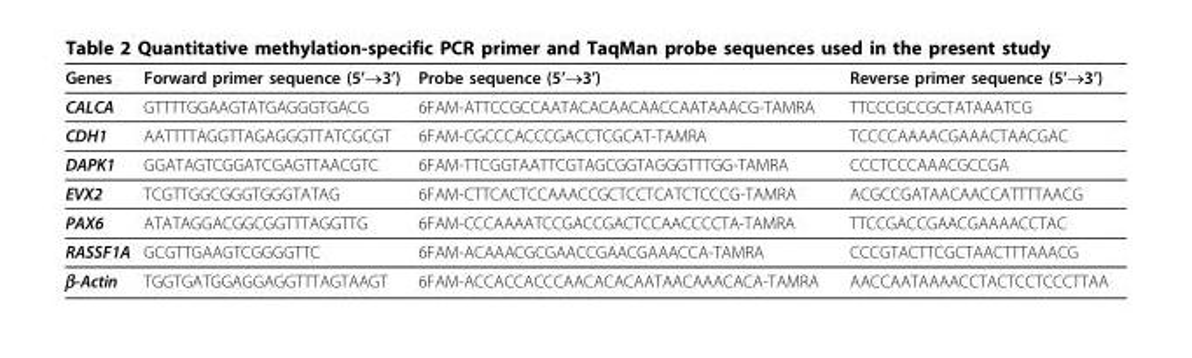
<table><thead><tr><td>Genes</td><td>Forward primer sequence (5’→3’)</td><td>Probe sequence (5’→3’)</td><td>Reverse primer sequence (5’→3’)</td></tr></thead><tbody><tr><td>CALCA</td><td>GTTTTGGAAGTATGAGGGTGACG</td><td>6FAM-ATTCCGCCAATACACAACAACCAATAAACG-TAMRA</td><td>TTCCCGCCGCTATAAATCG</td></tr><tr><td>CDH1</td><td>AATTTTAGGTTAGAGGGTTATCGCGT</td><td>6FAM-CGCCCACCCGACCTCGCAT-TAMRA</td><td>TCCCCAAAACGAAACTAACGAC</td></tr><tr><td>DAPK1</td><td>GGATAGTCGGATCGAGTTAACGTC</td><td>6FAM-TTCGGTAATTCGTAGCGGTAGGGTTTGG-TAMRA</td><td>CCCTCCCAAACGCCGA</td></tr><tr><td>EVX2</td><td>TCGTTGGCGGGTGGGTATAG</td><td>6FAM-CTTCACTCCAAACCGCTCCTCATCTCCCG-TAMRA</td><td>ACGCCGATAACAACCATTTTAACG</td></tr><tr><td>PAX6</td><td>ATATAGGACGGCGGTTTAGGTTG</td><td>6FAM-CCCAAAATCCGACCGACTCCAACCCCTA-TAMRA</td><td>TTCCGACCGAACGAAAACCTAC</td></tr><tr><td>RASSF1A</td><td>GCGTTGAAGTCGGGGTTC</td><td>6FAM-ACAAACGCGAACCGAACGAAACCA-TAMRA</td><td>CCCGTACTTCGCTAACTTTAAACG</td></tr><tr><td>β-Actin</td><td>TGGTGATGGAGGAGGTTTAGTAAGT</td><td>6FAM-ACCACCACCCAACACACAATAACAAACACA-TAMRA</td><td>AACCAATAAAACCTACTCCTCCCTTAA</td></tr></tbody></table>